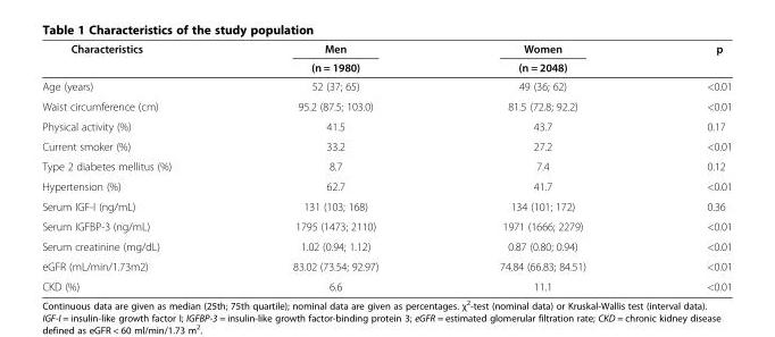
<table><thead><tr><td rowspan="2">Characteristics</td><td rowspan="2">Men (n = 1980)</td><td rowspan="2">Women (n = 2048)</td><td rowspan="2">p</td></tr><tr></tr></thead><tbody><tr><td>Age (years)</td><td>52 (37; 65)</td><td>49 (36; 62)</td><td>&lt;0.01</td></tr><tr><td>Waist circumference (cm)</td><td>95.2 (87.5; 103.0)</td><td>81.5 (72.8; 92.2)</td><td>&lt;0.01</td></tr><tr><td>Physical activity (%)</td><td>41.5</td><td>43.7</td><td>0.17</td></tr><tr><td>Current smoker (%)</td><td>33.2</td><td>27.2</td><td>&lt;0.01</td></tr><tr><td>Type 2 diabetes mellitus (%)</td><td>8.7</td><td>7.4</td><td>0.12</td></tr><tr><td>Hypertension (%)</td><td>62.7</td><td>41.7</td><td>&lt;0.01</td></tr><tr><td>Serum IGF-I (ng/mL)</td><td>131 (103; 168)</td><td>134 (101; 172)</td><td>0.36</td></tr><tr><td>Serum IGFBP-3 (ng/mL)</td><td>1795 (1473; 2110)</td><td>1971 (1666; 2279)</td><td>&lt;0.01</td></tr><tr><td>Serum creatinine (mg/dL)</td><td>1.02 (0.94; 1.12)</td><td>0.87 (0.80; 0.94)</td><td>&lt;0.01</td></tr><tr><td>eGFR (mL/min/1.73m2)</td><td>83.02 (73.54; 92.97)</td><td>74.84 (66.83; 84.51)</td><td>&lt;0.01</td></tr><tr><td>CKD (%)</td><td>6.6</td><td>11.1</td><td>&lt;0.01</td></tr></tbody></table>